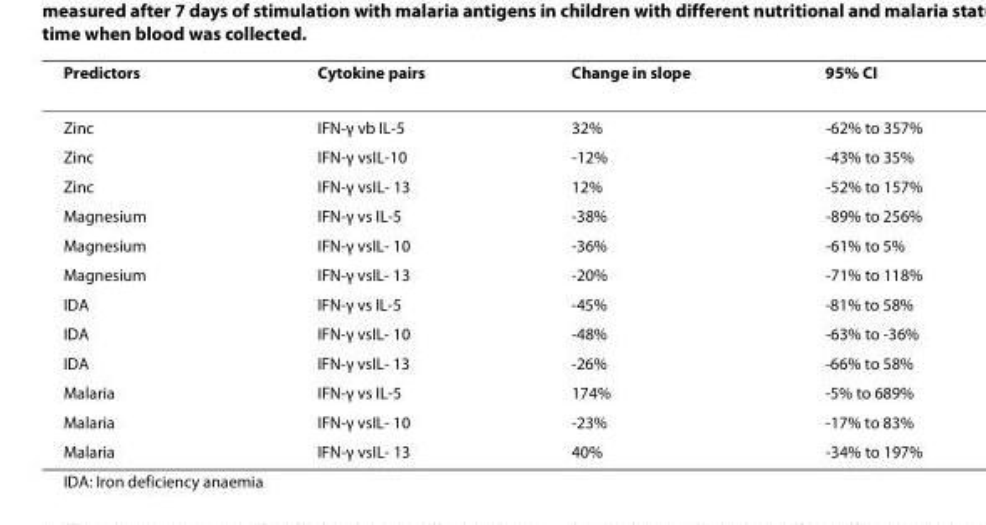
<table><thead><tr><td>Predictors</td><td>Cytokine pairs</td><td>Change in slope</td><td>95% CI</td></tr></thead><tbody><tr><td>Zinc</td><td>IFN-γ vb IL-5</td><td>32%</td><td>-62% to 357%</td></tr><tr><td>Zinc</td><td>IFN-γ vsIL-10</td><td>-12%</td><td>-43% to 35%</td></tr><tr><td>Zinc</td><td>IFN-γ vsIL- 13</td><td>12%</td><td>-52% to 157%</td></tr><tr><td>Magnesium</td><td>IFN-γ vs IL-5</td><td>-38%</td><td>-89% to 256%</td></tr><tr><td>Magnesium</td><td>IFN-γ vsIL- 10</td><td>-36%</td><td>-61% to 5%</td></tr><tr><td>Magnesium</td><td>IFN-γ vsIL- 13</td><td>-20%</td><td>-71% to 118%</td></tr><tr><td>IDA</td><td>IFN-γ vs IL-5</td><td>-45%</td><td>-81% to 58%</td></tr><tr><td>IDA</td><td>IFN-γ vsIL- 10</td><td>-48%</td><td>-63% to -36%</td></tr><tr><td>IDA</td><td>IFN-γ vsIL- 13</td><td>-26%</td><td>-66% to 58%</td></tr><tr><td>Malaria</td><td>IFN-γ vs IL-5</td><td>174%</td><td>-5% to 689%</td></tr><tr><td>Malaria</td><td>IFN-γ vsIL- 10</td><td>-23%</td><td>-17% to 83%</td></tr><tr><td>Malaria</td><td>IFN-γ vsIL- 13</td><td>40%</td><td>-34% to 197%</td></tr></tbody></table>